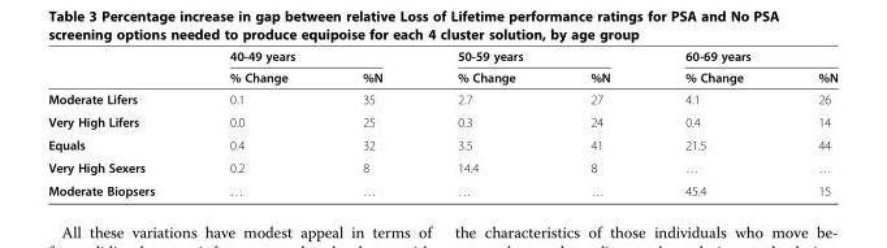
<table><thead><tr><td rowspan="2"></td><td colspan="2">40-49 years</td><td colspan="2">50-59 years</td><td colspan="2">60-69 years</td></tr><tr><td>% Change</td><td>%N</td><td>% Change</td><td>%N</td><td>% Change</td><td>%N</td></tr></thead><tbody><tr><td>Moderate Lifers</td><td>0.1</td><td>35</td><td>2.7</td><td>27</td><td>4.1</td><td>26</td></tr><tr><td>Very High Lifers</td><td>0.0</td><td>25</td><td>0.3</td><td>24</td><td>0.4</td><td>14</td></tr><tr><td>Equals</td><td>0.4</td><td>32</td><td>3.5</td><td>41</td><td>21.5</td><td>44</td></tr><tr><td>Very High Sexers</td><td>0.2</td><td>8</td><td>14.4</td><td>8</td><td>…</td><td>…</td></tr><tr><td>Moderate Biopsers</td><td>…</td><td>…</td><td>…</td><td>…</td><td>45.4</td><td>15</td></tr></tbody></table>